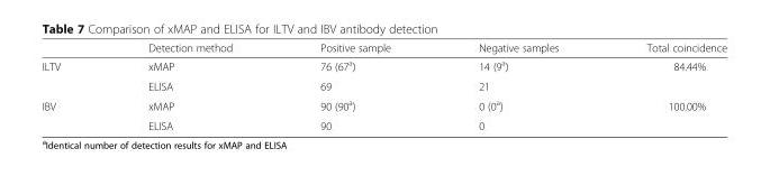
<table><thead><tr><td></td><td>Detection method</td><td>Positive sample</td><td>Negative samples</td><td>Total coincidence</td></tr></thead><tbody><tr><td rowspan="2">ILTV</td><td>xMAP</td><td>76 (67<sup>a</sup>)</td><td>14 (9<sup>a</sup>)</td><td>84.44%</td></tr><tr><td>ELISA</td><td>69</td><td>21</td><td></td></tr><tr><td rowspan="2">IBV</td><td>xMAP</td><td>90 (90<sup>a</sup>)</td><td>0 (0<sup>a</sup>)</td><td>100.00%</td></tr><tr><td>ELISA</td><td>90</td><td>0</td><td></td></tr></tbody></table>